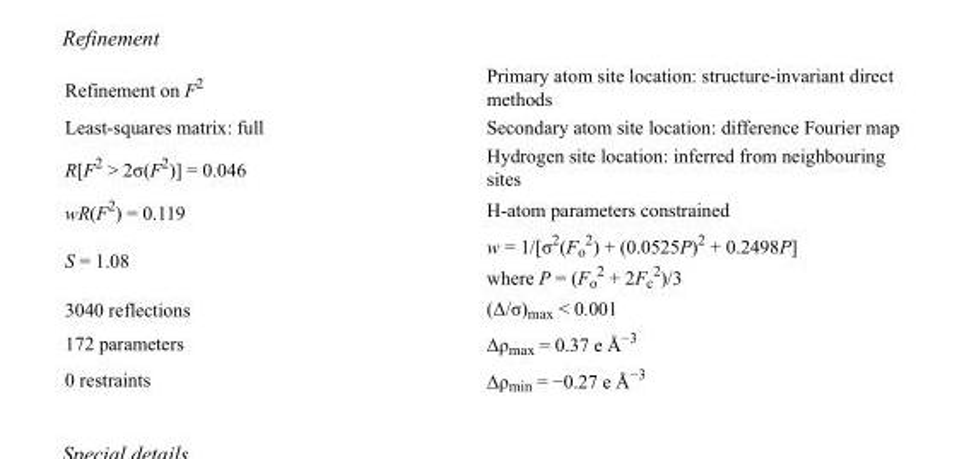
<table><tbody><tr><td>Refinement on F<sup>2</sup></td><td>Primary atom site location: structure-invariant direct methods</td></tr><tr><td>Least-squares matrix: full</td><td>Secondary atom site location: difference Fourier map</td></tr><tr><td>R[F<sup>2</sup> &gt; 2σ(F<sup>2</sup>)] = 0.046</td><td>Hydrogen site location: inferred from neighbouring sites</td></tr><tr><td>wR(F<sup>2</sup>) = 0.119</td><td>H-atom parameters constrained</td></tr><tr><td>S = 1.08</td><td>w = 1/[σ<sup>2</sup>(F<sub>o</sub> <sup>2</sup>) + (0.0525P)<sup>2</sup> + 0.2498P] where P = (F<sub>o</sub> <sup>2</sup> + 2F<sub>c</sub> <sup>2</sup>)/3</td></tr><tr><td>3040 reflections</td><td>(Δ/σ)<sub>max</sub> &lt; 0.001</td></tr><tr><td>172 parameters</td><td>Δρ<sub>max</sub> = 0.37 e Å<sup>−3</sup></td></tr><tr><td>0 restraints</td><td>Δρ<sub>min</sub> = −0.27 e Å<sup>−3</sup></td></tr></tbody></table>